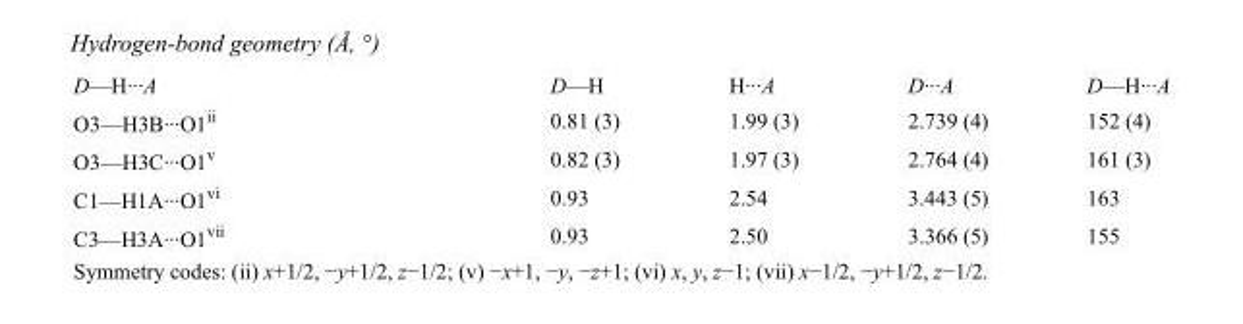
<table><tbody><tr><td>D—H···A</td><td>D—H</td><td>H···A</td><td>D···A</td><td>D—H···A</td></tr><tr><td>O3—H3B···O1<sup>ii</sup></td><td>0.81 (3)</td><td>1.99 (3)</td><td>2.739 (4)</td><td>152 (4)</td></tr><tr><td>O3—H3C···O1<sup>v</sup></td><td>0.82 (3)</td><td>1.97 (3)</td><td>2.764 (4)</td><td>161 (3)</td></tr><tr><td>C1—H1A···O1<sup>vi</sup></td><td>0.93</td><td>2.54</td><td>3.443 (5)</td><td>163</td></tr><tr><td>C3—H3A···O1<sup>vii</sup></td><td>0.93</td><td>2.50</td><td>3.366 (5)</td><td>155</td></tr></tbody></table>